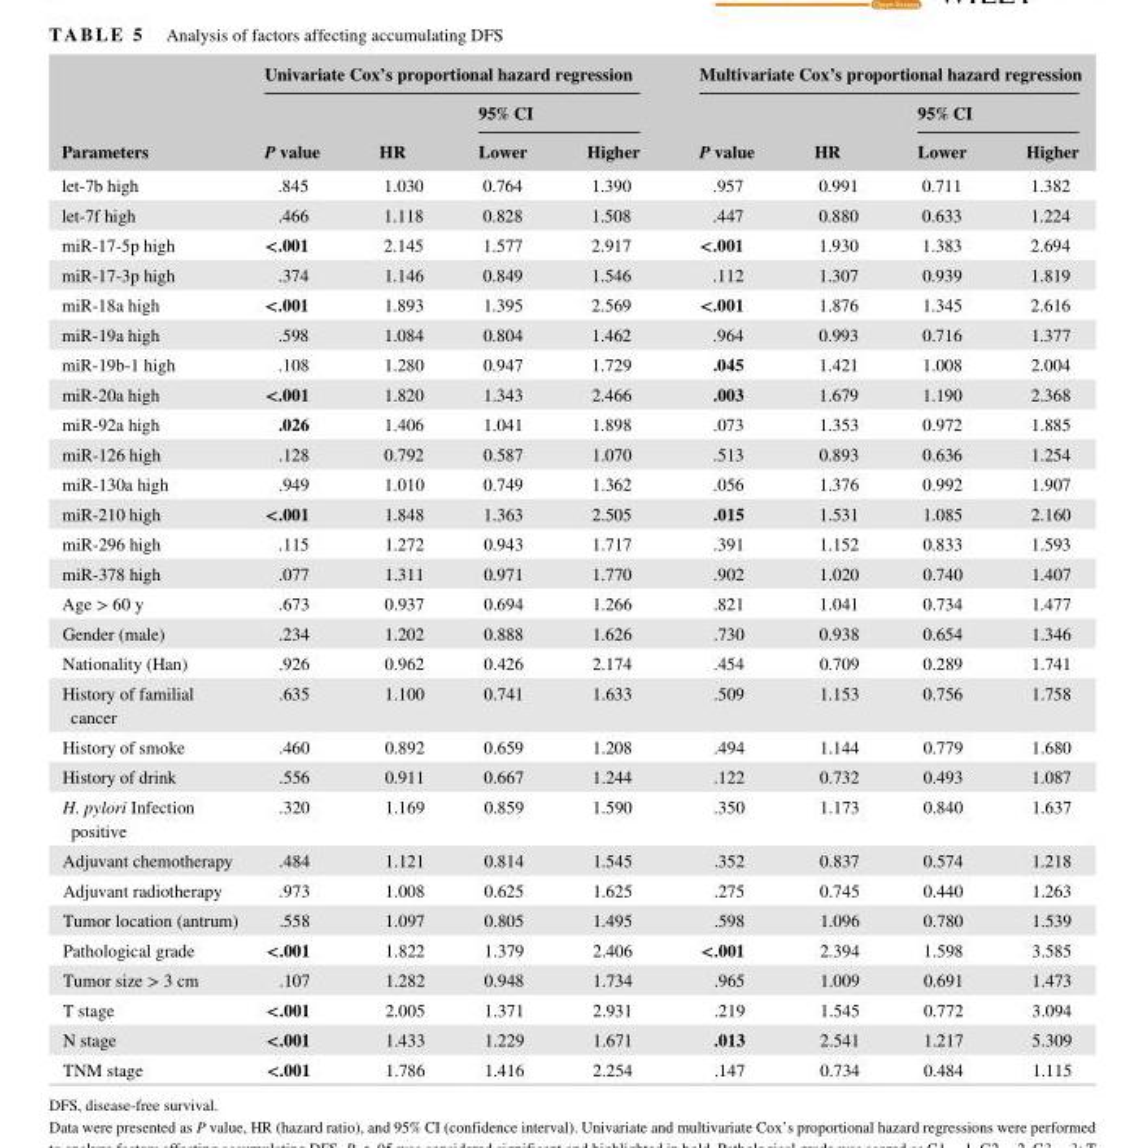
<table><thead><tr><td rowspan="3">Parameters</td><td colspan="4">Univariate Cox’s proportional hazard regression</td><td colspan="4">Multivariate Cox’s proportional hazard regression</td></tr><tr><td rowspan="2">P value</td><td rowspan="2">HR</td><td colspan="2">95% CI</td><td rowspan="2">P value</td><td rowspan="2">HR</td><td colspan="2">95% CI</td></tr><tr><td>Lower</td><td>Higher</td><td>Lower</td><td>Higher</td></tr></thead><tbody><tr><td>let- 7b high</td><td>.845</td><td>1.030</td><td>0.764</td><td>1.390</td><td>.957</td><td>0.991</td><td>0.711</td><td>1.382</td></tr><tr><td>let- 7f high</td><td>.466</td><td>1.118</td><td>0.828</td><td>1.508</td><td>.447</td><td>0.880</td><td>0.633</td><td>1.224</td></tr><tr><td>miR- 17- 5p high</td><td>&lt;.001</td><td>2.145</td><td>1.577</td><td>2.917</td><td>&lt;.001</td><td>1.930</td><td>1.383</td><td>2.694</td></tr><tr><td>miR- 17- 3p high</td><td>.374</td><td>1.146</td><td>0.849</td><td>1.546</td><td>.112</td><td>1.307</td><td>0.939</td><td>1.819</td></tr><tr><td>miR- 18a high</td><td>&lt;.001</td><td>1.893</td><td>1.395</td><td>2.569</td><td>&lt;.001</td><td>1.876</td><td>1.345</td><td>2.616</td></tr><tr><td>miR- 19a high</td><td>.598</td><td>1.084</td><td>0.804</td><td>1.462</td><td>.964</td><td>0.993</td><td>0.716</td><td>1.377</td></tr><tr><td>miR- 19b- 1 high</td><td>.108</td><td>1.280</td><td>0.947</td><td>1.729</td><td>.045</td><td>1.421</td><td>1.008</td><td>2.004</td></tr><tr><td>miR- 20a high</td><td>&lt;.001</td><td>1.820</td><td>1.343</td><td>2.466</td><td>.003</td><td>1.679</td><td>1.190</td><td>2.368</td></tr><tr><td>miR- 92a high</td><td>.026</td><td>1.406</td><td>1.041</td><td>1.898</td><td>.073</td><td>1.353</td><td>0.972</td><td>1.885</td></tr><tr><td>miR- 126 high</td><td>.128</td><td>0.792</td><td>0.587</td><td>1.070</td><td>.513</td><td>0.893</td><td>0.636</td><td>1.254</td></tr><tr><td>miR- 130a high</td><td>.949</td><td>1.010</td><td>0.749</td><td>1.362</td><td>.056</td><td>1.376</td><td>0.992</td><td>1.907</td></tr><tr><td>miR- 210 high</td><td>&lt;.001</td><td>1.848</td><td>1.363</td><td>2.505</td><td>.015</td><td>1.531</td><td>1.085</td><td>2.160</td></tr><tr><td>miR- 296 high</td><td>.115</td><td>1.272</td><td>0.943</td><td>1.717</td><td>.391</td><td>1.152</td><td>0.833</td><td>1.593</td></tr><tr><td>miR- 378 high</td><td>.077</td><td>1.311</td><td>0.971</td><td>1.770</td><td>.902</td><td>1.020</td><td>0.740</td><td>1.407</td></tr><tr><td>Age &gt; 60 y</td><td>.673</td><td>0.937</td><td>0.694</td><td>1.266</td><td>.821</td><td>1.041</td><td>0.734</td><td>1.477</td></tr><tr><td>Gender (male)</td><td>.234</td><td>1.202</td><td>0.888</td><td>1.626</td><td>.730</td><td>0.938</td><td>0.654</td><td>1.346</td></tr><tr><td>Nationality (Han)</td><td>.926</td><td>0.962</td><td>0.426</td><td>2.174</td><td>.454</td><td>0.709</td><td>0.289</td><td>1.741</td></tr><tr><td>History of familial cancer</td><td>.635</td><td>1.100</td><td>0.741</td><td>1.633</td><td>.509</td><td>1.153</td><td>0.756</td><td>1.758</td></tr><tr><td>History of smoke</td><td>.460</td><td>0.892</td><td>0.659</td><td>1.208</td><td>.494</td><td>1.144</td><td>0.779</td><td>1.680</td></tr><tr><td>History of drink</td><td>.556</td><td>0.911</td><td>0.667</td><td>1.244</td><td>.122</td><td>0.732</td><td>0.493</td><td>1.087</td></tr><tr><td>H. pylori Infection positive</td><td>.320</td><td>1.169</td><td>0.859</td><td>1.590</td><td>.350</td><td>1.173</td><td>0.840</td><td>1.637</td></tr><tr><td>Adjuvant chemotherapy</td><td>.484</td><td>1.121</td><td>0.814</td><td>1.545</td><td>.352</td><td>0.837</td><td>0.574</td><td>1.218</td></tr><tr><td>Adjuvant radiotherapy</td><td>.973</td><td>1.008</td><td>0.625</td><td>1.625</td><td>.275</td><td>0.745</td><td>0.440</td><td>1.263</td></tr><tr><td>Tumor location (antrum)</td><td>.558</td><td>1.097</td><td>0.805</td><td>1.495</td><td>.598</td><td>1.096</td><td>0.780</td><td>1.539</td></tr><tr><td>Pathological grade</td><td>&lt;.001</td><td>1.822</td><td>1.379</td><td>2.406</td><td>&lt;.001</td><td>2.394</td><td>1.598</td><td>3.585</td></tr><tr><td>Tumor size &gt; 3 cm</td><td>.107</td><td>1.282</td><td>0.948</td><td>1.734</td><td>.965</td><td>1.009</td><td>0.691</td><td>1.473</td></tr><tr><td>T stage</td><td>&lt;.001</td><td>2.005</td><td>1.371</td><td>2.931</td><td>.219</td><td>1.545</td><td>0.772</td><td>3.094</td></tr><tr><td>N stage</td><td>&lt;.001</td><td>1.433</td><td>1.229</td><td>1.671</td><td>.013</td><td>2.541</td><td>1.217</td><td>5.309</td></tr><tr><td>TNM stage</td><td>&lt;.001</td><td>1.786</td><td>1.416</td><td>2.254</td><td>.147</td><td>0.734</td><td>0.484</td><td>1.115</td></tr></tbody></table>